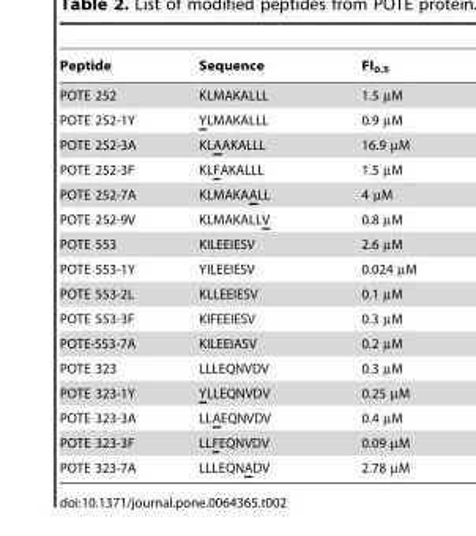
<table><thead><tr><td>Peptide</td><td>Sequence</td><td>FI<sub>0.5</sub></td></tr></thead><tbody><tr><td>POTE 252</td><td>KLMAKALLL</td><td>1.5 µM</td></tr><tr><td>POTE 252-1Y</td><td>YLMAKALLL</td><td>0.9 µM</td></tr><tr><td>POTE 252-3A</td><td>KLAAKALLL</td><td>16.9 µM</td></tr><tr><td>POTE 252-3F</td><td>KLFAKALLL</td><td>1.5 µM</td></tr><tr><td>POTE 252-7A</td><td>KLMAKAALL</td><td>4 µM</td></tr><tr><td>POTE 252-9V</td><td>KLMAKALLV</td><td>0.8 µM</td></tr><tr><td>POTE 553</td><td>KILEEIESV</td><td>2.6 µM</td></tr><tr><td>POTE 553-1Y</td><td>YILEEIESV</td><td>0.024 µM</td></tr><tr><td>POTE 553-2L</td><td>KLLEEIESV</td><td>0.1 µM</td></tr><tr><td>POTE 553-3F</td><td>KIFEEIESV</td><td>0.3 µM</td></tr><tr><td>POTE-553-7A</td><td>KILEEIASV</td><td>0.2 µM</td></tr><tr><td>POTE 323</td><td>LLLEQNVDV</td><td>0.3 µM</td></tr><tr><td>POTE 323-1Y</td><td>YLLEQNVDV</td><td>0.25 µM</td></tr><tr><td>POTE 323-3A</td><td>LLAEQNVDV</td><td>0.4 µM</td></tr><tr><td>POTE 323-3F</td><td>LLFEQNVDV</td><td>0.09 µM</td></tr><tr><td>POTE 323-7A</td><td>LLLEQNADV</td><td>2.78 µM</td></tr></tbody></table>